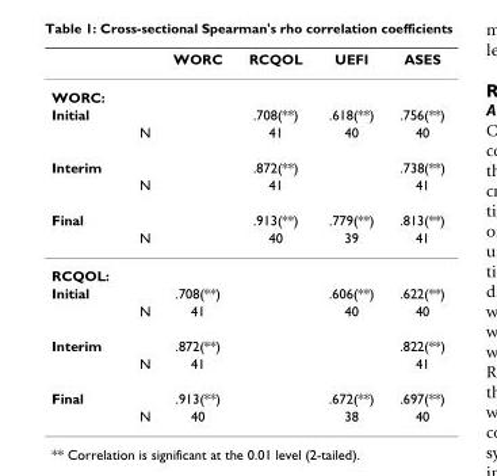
<table><thead><tr><td></td><td></td><td>WORC</td><td>RCQOL</td><td>UEFI</td><td>ASES</td></tr></thead><tbody><tr><td colspan="6">WORC:</td></tr><tr><td rowspan="2">Initial</td><td></td><td></td><td>.708(**)</td><td>.618(**)</td><td>.756(**)</td></tr><tr><td>N</td><td></td><td>41</td><td>40</td><td>40</td></tr><tr><td rowspan="2">Interim</td><td></td><td></td><td>.872(**)</td><td></td><td>.738(**)</td></tr><tr><td>N</td><td></td><td>41</td><td></td><td>41</td></tr><tr><td rowspan="2">Final</td><td></td><td></td><td>.913(**)</td><td>.779(**)</td><td>.813(**)</td></tr><tr><td>N</td><td></td><td>40</td><td>39</td><td>41</td></tr><tr><td colspan="6">RCQOL:</td></tr><tr><td rowspan="2">Initial</td><td></td><td>.708(**)</td><td></td><td>.606(**)</td><td>.622(**)</td></tr><tr><td>N</td><td>41</td><td></td><td>40</td><td>40</td></tr><tr><td rowspan="2">Interim</td><td></td><td>.872(**)</td><td></td><td></td><td>.822(**)</td></tr><tr><td>N</td><td>41</td><td></td><td></td><td>41</td></tr><tr><td rowspan="2">Final</td><td></td><td>.913(**)</td><td></td><td>.672(**)</td><td>.697(**)</td></tr><tr><td>N</td><td>40</td><td></td><td>38</td><td>40</td></tr></tbody></table>